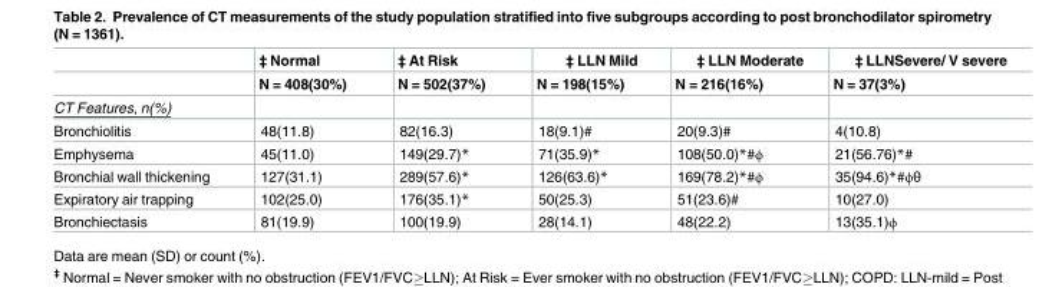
<table><thead><tr><td rowspan="2"></td><td rowspan="2">‡ Normal N = 408(30%)</td><td rowspan="2">‡ At Risk N = 502(37%)</td><td rowspan="2">‡ LLN Mild N = 198(15%)</td><td rowspan="2">‡ LLN Moderate N = 216(16%)</td><td rowspan="2">‡ LLNSevere/ V severe N = 37(3%)</td></tr><tr></tr></thead><tbody><tr><td colspan="6">CT Features, n(%)</td></tr><tr><td>Bronchiolitis</td><td>48(11.8)</td><td>82(16.3)</td><td>18(9.1)<sup>#</sup></td><td>20(9.3)<sup>#</sup></td><td>4(10.8)</td></tr><tr><td>Emphysema</td><td>45(11.0)</td><td>149(29.7)*</td><td>71(35.9)*</td><td>108(50.0)*<sup>#ϕ</sup></td><td>21(56.76)*<sup>#</sup></td></tr><tr><td>Bronchial wall thickening</td><td>127(31.1)</td><td>289(57.6)*</td><td>126(63.6)*</td><td>169(78.2)*<sup>#ϕ</sup></td><td>35(94.6)*<sup>#ϕθ</sup></td></tr><tr><td>Expiratory air trapping</td><td>102(25.0)</td><td>176(35.1)*</td><td>50(25.3)</td><td>51(23.6)<sup>#</sup></td><td>10(27.0)</td></tr><tr><td>Bronchiectasis</td><td>81(19.9)</td><td>100(19.9)</td><td>28(14.1)</td><td>48(22.2)</td><td>13(35.1)<sup>ϕ</sup></td></tr></tbody></table>